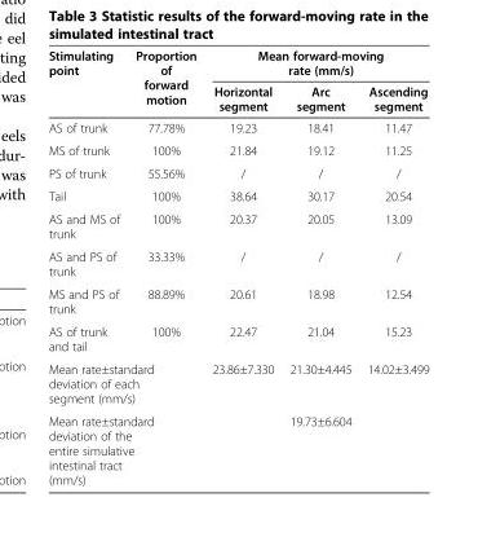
<table><thead><tr><td rowspan="2">Stimulating point</td><td rowspan="2">Proportion of forward motion</td><td colspan="3">Mean forward-moving rate (mm/s)</td></tr><tr><td>Horizontal segment</td><td>Arc segment</td><td>Ascending segment</td></tr></thead><tbody><tr><td>AS of trunk</td><td>77.78%</td><td>19.23</td><td>18.41</td><td>11.47</td></tr><tr><td>MS of trunk</td><td>100%</td><td>21.84</td><td>19.12</td><td>11.25</td></tr><tr><td>PS of trunk</td><td>55.56%</td><td>/</td><td>/</td><td>/</td></tr><tr><td>Tail</td><td>100%</td><td>38.64</td><td>30.17</td><td>20.54</td></tr><tr><td>AS and MS of trunk</td><td>100%</td><td>20.37</td><td>20.05</td><td>13.09</td></tr><tr><td>AS and PS of trunk</td><td>33.33%</td><td>/</td><td>/</td><td>/</td></tr><tr><td>MS and PS of trunk</td><td>88.89%</td><td>20.61</td><td>18.98</td><td>12.54</td></tr><tr><td>AS of trunk and tail</td><td>100%</td><td>22.47</td><td>21.04</td><td>15.23</td></tr><tr><td colspan="2">Mean rate±standard deviation of each segment (mm/s)</td><td>23.86±7.330</td><td>21.30±4.445</td><td>14.02±3.499</td></tr><tr><td colspan="2">Mean rate±standard deviation of the entire simulative intestinal tract (mm/s)</td><td colspan="3">19.73±6.604</td></tr></tbody></table>